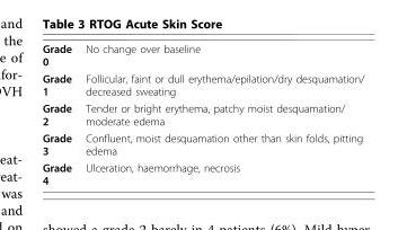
<table><tbody><tr><td>Grade 0</td><td>No change over baseline</td></tr><tr><td>Grade 1</td><td>Follicular, faint or dull erythema/epilation/dry desquamation/ decreased sweating</td></tr><tr><td>Grade 2</td><td>Tender or bright erythema, patchy moist desquamation/ moderate edema</td></tr><tr><td>Grade 3</td><td>Confluent, moist desquamation other than skin folds, pitting edema</td></tr><tr><td>Grade 4</td><td>Ulceration, haemorrhage, necrosis</td></tr></tbody></table>